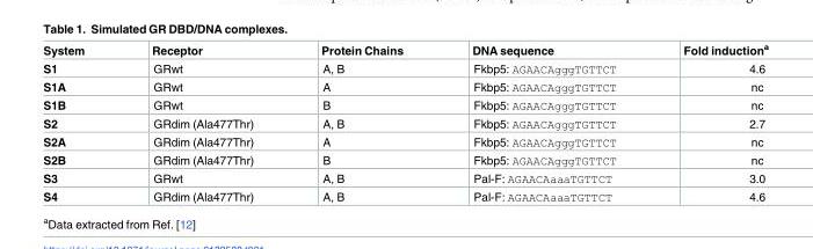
<table><thead><tr><td>System</td><td>Receptor</td><td>Protein Chains</td><td>DNA sequence</td><td>Fold induction<sup>a</sup></td></tr></thead><tbody><tr><td>S1</td><td>GRwt</td><td>A, B</td><td>Fkbp5: AGAACAgggTGTTCT</td><td>4.6</td></tr><tr><td>S1A</td><td>GRwt</td><td>A</td><td>Fkbp5: AGAACAgggTGTTCT</td><td>nc</td></tr><tr><td>S1B</td><td>GRwt</td><td>B</td><td>Fkbp5: AGAACAgggTGTTCT</td><td>nc</td></tr><tr><td>S2</td><td>GRdim (Ala477Thr)</td><td>A, B</td><td>Fkbp5: AGAACAgggTGTTCT</td><td>2.7</td></tr><tr><td>S2A</td><td>GRdim (Ala477Thr)</td><td>A</td><td>Fkbp5: AGAACAgggTGTTCT</td><td>nc</td></tr><tr><td>S2B</td><td>GRdim (Ala477Thr)</td><td>B</td><td>Fkbp5: AGAACAgggTGTTCT</td><td>nc</td></tr><tr><td>S3</td><td>GRwt</td><td>A, B</td><td>Pal-F: AGAACAaaaTGTTCT</td><td>3.0</td></tr><tr><td>S4</td><td>GRdim (Ala477Thr)</td><td>A, B</td><td>Pal-F: AGAACAaaaTGTTCT</td><td>4.6</td></tr></tbody></table>